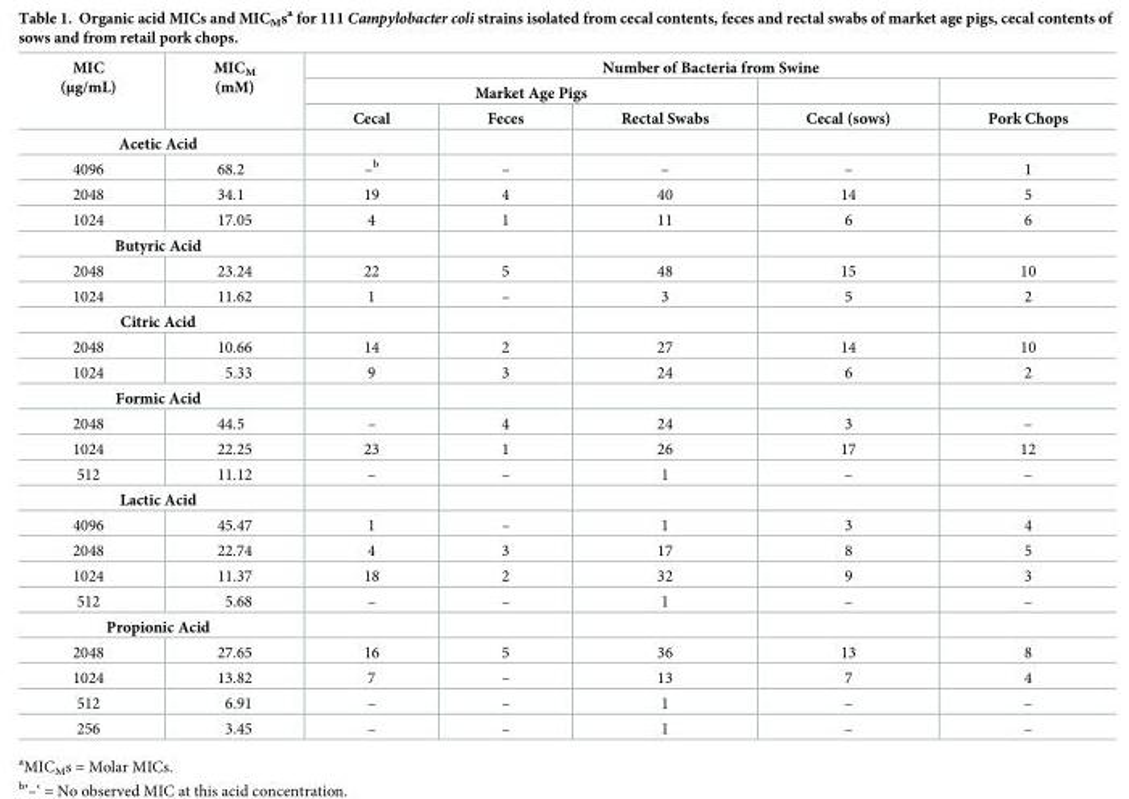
<table><thead><tr><td rowspan="3">MIC (μg/mL)</td><td rowspan="3">MIC<sub>M</sub> (mM)</td><td colspan="5">Number of Bacteria from Swine</td></tr><tr><td colspan="3">Market Age Pigs</td><td rowspan="2">Cecal (sows)</td><td rowspan="2">Pork Chops</td></tr><tr><td>Cecal</td><td>Feces</td><td>Rectal Swabs</td></tr></thead><tbody><tr><td colspan="7">Acetic Acid</td></tr><tr><td>4096</td><td>68.2</td><td>–<sup>b</sup></td><td>–</td><td>–</td><td>–</td><td>1</td></tr><tr><td>2048</td><td>34.1</td><td>19</td><td>4</td><td>40</td><td>14</td><td>5</td></tr><tr><td>1024</td><td>17.05</td><td>4</td><td>1</td><td>11</td><td>6</td><td>6</td></tr><tr><td colspan="7">Butyric Acid</td></tr><tr><td>2048</td><td>23.24</td><td>22</td><td>5</td><td>48</td><td>15</td><td>10</td></tr><tr><td>1024</td><td>11.62</td><td>1</td><td>–</td><td>3</td><td>5</td><td>2</td></tr><tr><td colspan="7">Citric Acid</td></tr><tr><td>2048</td><td>10.66</td><td>14</td><td>2</td><td>27</td><td>14</td><td>10</td></tr><tr><td>1024</td><td>5.33</td><td>9</td><td>3</td><td>24</td><td>6</td><td>2</td></tr><tr><td colspan="7">Formic Acid</td></tr><tr><td>2048</td><td>44.5</td><td>–</td><td>4</td><td>24</td><td>3</td><td>–</td></tr><tr><td>1024</td><td>22.25</td><td>23</td><td>1</td><td>26</td><td>17</td><td>12</td></tr><tr><td>512</td><td>11.12</td><td>–</td><td>–</td><td>1</td><td>–</td><td>–</td></tr><tr><td colspan="7">Lactic Acid</td></tr><tr><td>4096</td><td>45.47</td><td>1</td><td>–</td><td>1</td><td>3</td><td>4</td></tr><tr><td>2048</td><td>22.74</td><td>4</td><td>3</td><td>17</td><td>8</td><td>5</td></tr><tr><td>1024</td><td>11.37</td><td>18</td><td>2</td><td>32</td><td>9</td><td>3</td></tr><tr><td>512</td><td>5.68</td><td>–</td><td>–</td><td>1</td><td>–</td><td>–</td></tr><tr><td colspan="7">Propionic Acid</td></tr><tr><td>2048</td><td>27.65</td><td>16</td><td>5</td><td>36</td><td>13</td><td>8</td></tr><tr><td>1024</td><td>13.82</td><td>7</td><td>–</td><td>13</td><td>7</td><td>4</td></tr><tr><td>512</td><td>6.91</td><td>–</td><td>–</td><td>1</td><td>–</td><td>–</td></tr><tr><td>256</td><td>3.45</td><td>–</td><td>–</td><td>1</td><td>–</td><td>–</td></tr></tbody></table>